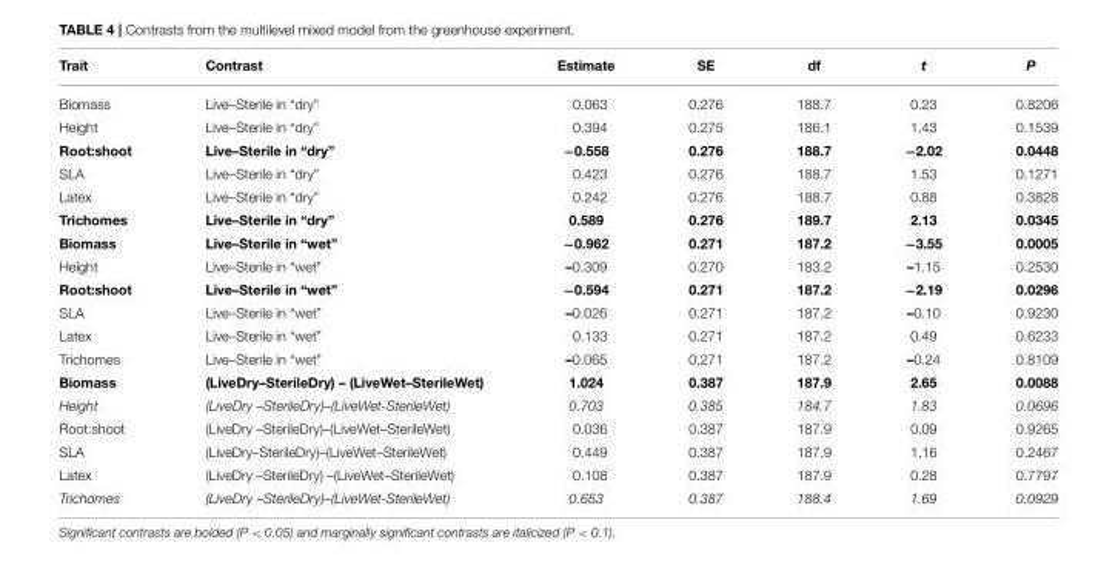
<table><thead><tr><td>Trait</td><td>Contrast</td><td>Estimate</td><td>SE</td><td>df</td><td>t</td><td>P</td></tr></thead><tbody><tr><td>Biomass</td><td>Live–Sterile in “dry”</td><td>0.063</td><td>0.276</td><td>188.7</td><td>0.23</td><td>0.8206</td></tr><tr><td>Height</td><td>Live–Sterile in “dry”</td><td>0.394</td><td>0.275</td><td>186.1</td><td>1.43</td><td>0.1539</td></tr><tr><td>Root:shoot</td><td>Live–Sterile in “dry”</td><td>−0.558</td><td>0.276</td><td>188.7</td><td>−2.02</td><td>0.0448</td></tr><tr><td>SLA</td><td>Live–Sterile in “dry”</td><td>0.423</td><td>0.276</td><td>188.7</td><td>1.53</td><td>0.1271</td></tr><tr><td>Latex</td><td>Live–Sterile in “dry”</td><td>0.242</td><td>0.276</td><td>188.7</td><td>0.88</td><td>0.3828</td></tr><tr><td>Trichomes</td><td>Live–Sterile in “dry”</td><td>0.589</td><td>0.276</td><td>189.7</td><td>2.13</td><td>0.0345</td></tr><tr><td>Biomass</td><td>Live–Sterile in “wet”</td><td>−0.962</td><td>0.271</td><td>187.2</td><td>−3.55</td><td>0.0005</td></tr><tr><td>Height</td><td>Live–Sterile in “wet”</td><td>–0.309</td><td>0.270</td><td>183.2</td><td>–1.15</td><td>0.2530</td></tr><tr><td>Root:shoot</td><td>Live–Sterile in “wet”</td><td>−0.594</td><td>0.271</td><td>187.2</td><td>−2.19</td><td>0.0296</td></tr><tr><td>SLA</td><td>Live–Sterile in “wet”</td><td>–0.026</td><td>0.271</td><td>187.2</td><td>–0.10</td><td>0.9230</td></tr><tr><td>Latex</td><td>Live–Sterile in “wet”</td><td>0.133</td><td>0.271</td><td>187.2</td><td>0.49</td><td>0.6233</td></tr><tr><td>Trichomes</td><td>Live–Sterile in “wet”</td><td>–0.065</td><td>0.271</td><td>187.2</td><td>–0.24</td><td>0.8109</td></tr><tr><td>Biomass</td><td>(LiveDry–SterileDry) – (LiveWet–SterileWet)</td><td>1.024</td><td>0.387</td><td>187.9</td><td>2.65</td><td>0.0088</td></tr><tr><td>Height</td><td>(LiveDry –SterileDry)–(LiveWet-SterileWet)</td><td>0.703</td><td>0.385</td><td>184.7</td><td>1.83</td><td>0.0696</td></tr><tr><td>Root:shoot</td><td>(LiveDry –SterileDry)–(LiveWet–SterileWet)</td><td>0.036</td><td>0.387</td><td>187.9</td><td>0.09</td><td>0.9265</td></tr><tr><td>SLA</td><td>(LiveDry–SterileDry)–(LiveWet–SterileWet)</td><td>0.449</td><td>0.387</td><td>187.9</td><td>1.16</td><td>0.2467</td></tr><tr><td>Latex</td><td>(LiveDry –SterileDry) –(LiveWet–SterileWet)</td><td>0.108</td><td>0.387</td><td>187.9</td><td>0.28</td><td>0.7797</td></tr><tr><td>Trichomes</td><td>(LiveDry –SterileDry)–(LiveWet-SterileWet)</td><td>0.653</td><td>0.387</td><td>188.4</td><td>1.69</td><td>0.0929</td></tr></tbody></table>